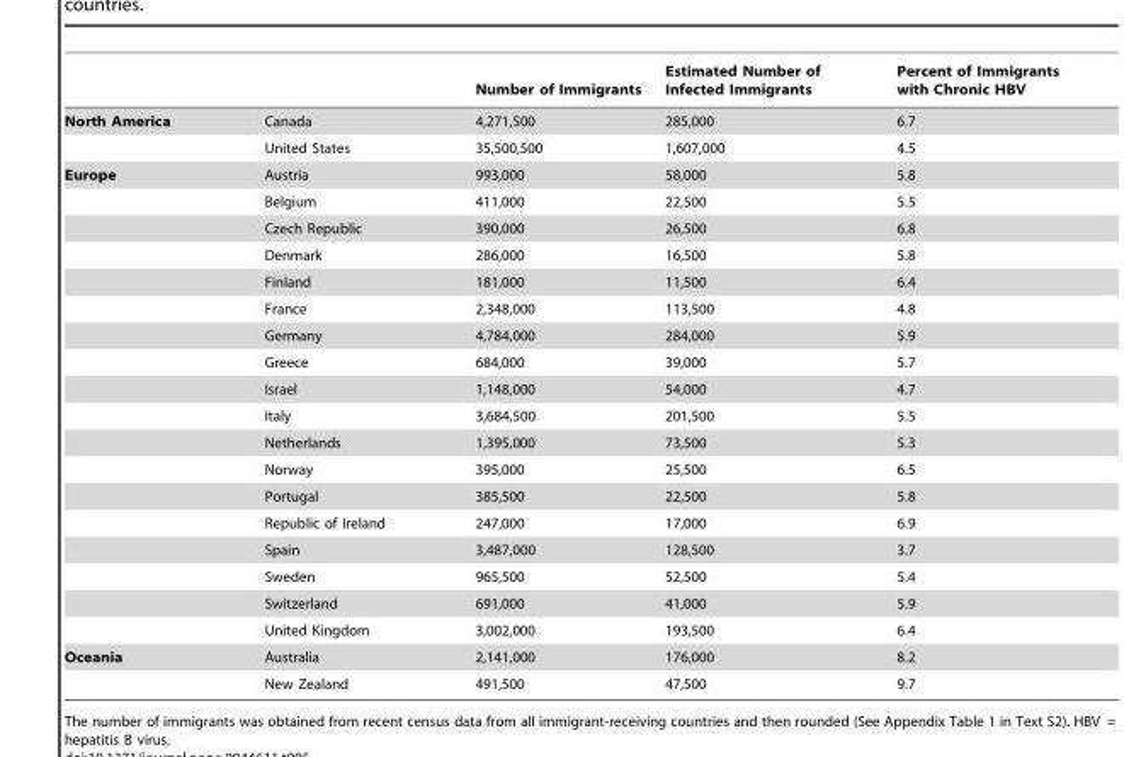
<table><thead><tr><td></td><td></td><td>Number of Immigrants</td><td>Estimated Number of Infected Immigrants</td><td>Percent of Immigrants with Chronic HBV</td></tr></thead><tbody><tr><td rowspan="2">North America</td><td>Canada</td><td>4,271,500</td><td>285,000</td><td>6.7</td></tr><tr><td>United States</td><td>35,500,500</td><td>1,607,000</td><td>4.5</td></tr><tr><td rowspan="18">Europe</td><td>Austria</td><td>993,000</td><td>58,000</td><td>5.8</td></tr><tr><td>Belgium</td><td>411,000</td><td>22,500</td><td>5.5</td></tr><tr><td>Czech Republic</td><td>390,000</td><td>26,500</td><td>6.8</td></tr><tr><td>Denmark</td><td>286,000</td><td>16,500</td><td>5.8</td></tr><tr><td>Finland</td><td>181,000</td><td>11,500</td><td>6.4</td></tr><tr><td>France</td><td>2,348,000</td><td>113,500</td><td>4.8</td></tr><tr><td>Germany</td><td>4,784,000</td><td>284,000</td><td>5.9</td></tr><tr><td>Greece</td><td>684,000</td><td>39,000</td><td>5.7</td></tr><tr><td>Israel</td><td>1,148,000</td><td>54,000</td><td>4.7</td></tr><tr><td>Italy</td><td>3,684,500</td><td>201,500</td><td>5.5</td></tr><tr><td>Netherlands</td><td>1,395,000</td><td>73,500</td><td>5.3</td></tr><tr><td>Norway</td><td>395,000</td><td>25,500</td><td>6.5</td></tr><tr><td>Portugal</td><td>385,500</td><td>22,500</td><td>5.8</td></tr><tr><td>Republic of Ireland</td><td>247,000</td><td>17,000</td><td>6.9</td></tr><tr><td>Spain</td><td>3,487,000</td><td>128,500</td><td>3.7</td></tr><tr><td>Sweden</td><td>965,500</td><td>52,500</td><td>5.4</td></tr><tr><td>Switzerland</td><td>691,000</td><td>41,000</td><td>5.9</td></tr><tr><td>United Kingdom</td><td>3,002,000</td><td>193,500</td><td>6.4</td></tr><tr><td rowspan="2">Oceania</td><td>Australia</td><td>2,141,000</td><td>176,000</td><td>8.2</td></tr><tr><td>New Zealand</td><td>491,500</td><td>47,500</td><td>9.7</td></tr></tbody></table>